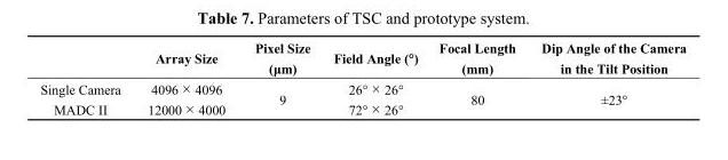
<table><thead><tr><td></td><td>Array Size</td><td>Pixel Size (μm)</td><td>Field Angle (°)</td><td>Focal Length (mm)</td><td>Dip Angle of the Camera in the Tilt Position</td></tr></thead><tbody><tr><td>Single Camera</td><td>4096 × 4096</td><td rowspan="2">9</td><td>26° × 26°</td><td rowspan="2">80</td><td rowspan="2">±23°</td></tr><tr><td>MADC II</td><td>12000 × 4000</td><td>72° × 26°</td></tr></tbody></table>